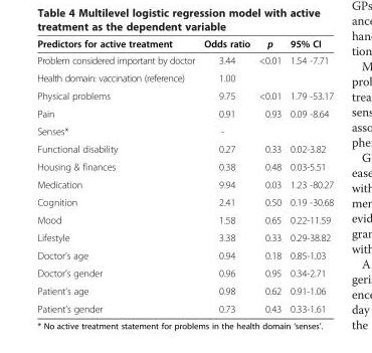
<table><thead><tr><td>Predictors for active treatment</td><td>Odds ratio</td><td>p</td><td>95% CI</td></tr></thead><tbody><tr><td>Problem considered important by doctor</td><td>3.44</td><td>&lt;0.01</td><td>1.54 -7.71</td></tr><tr><td>Health domain: vaccination (reference)</td><td>1.00</td><td></td><td></td></tr><tr><td>Physical problems</td><td>9.75</td><td>&lt;0.01</td><td>1.79 -53.17</td></tr><tr><td>Pain</td><td>0.91</td><td>0.93</td><td>0.09 -8.64</td></tr><tr><td>Senses*</td><td>-</td><td></td><td></td></tr><tr><td>Functional disability</td><td>0.27</td><td>0.33</td><td>0.02-3.82</td></tr><tr><td>Housing &amp; finances</td><td>0.38</td><td>0.48</td><td>0.03-5.51</td></tr><tr><td>Medication</td><td>9.94</td><td>0.03</td><td>1.23 -80.27</td></tr><tr><td>Cognition</td><td>2.41</td><td>0.50</td><td>0.19 -30.68</td></tr><tr><td>Mood</td><td>1.58</td><td>0.65</td><td>0.22-11.59</td></tr><tr><td>Lifestyle</td><td>3.38</td><td>0.33</td><td>0.29-38.82</td></tr><tr><td>Doctor’s age</td><td>0.94</td><td>0.18</td><td>0.85-1.03</td></tr><tr><td>Doctor’s gender</td><td>0.96</td><td>0.95</td><td>0.34-2.71</td></tr><tr><td>Patient’s age</td><td>0.98</td><td>0.62</td><td>0.91-1.06</td></tr><tr><td>Patient’s gender</td><td>0.73</td><td>0.43</td><td>0.33-1.61</td></tr></tbody></table>